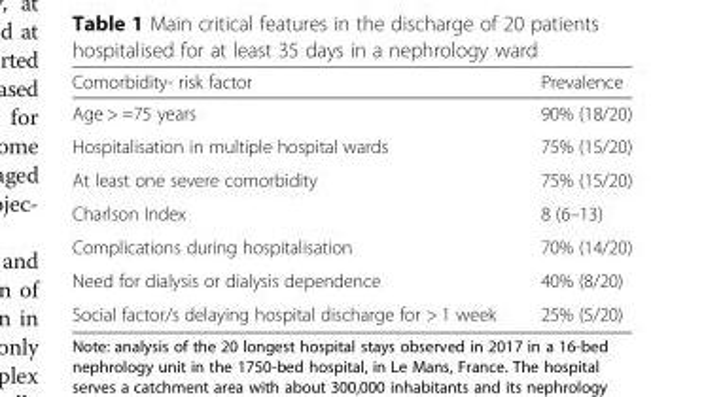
<table><thead><tr><td>Comorbidity- risk factor</td><td>Prevalence</td></tr></thead><tbody><tr><td>Age &gt; =75 years</td><td>90% (18/20)</td></tr><tr><td>Hospitalisation in multiple hospital wards</td><td>75% (15/20)</td></tr><tr><td>At least one severe comorbidity</td><td>75% (15/20)</td></tr><tr><td>Charlson Index</td><td>8 (6–13)</td></tr><tr><td>Complications during hospitalisation</td><td>70% (14/20)</td></tr><tr><td>Need for dialysis or dialysis dependence</td><td>40% (8/20)</td></tr><tr><td>Social factor/s delaying hospital discharge for &gt; 1 week</td><td>25% (5/20)</td></tr></tbody></table>